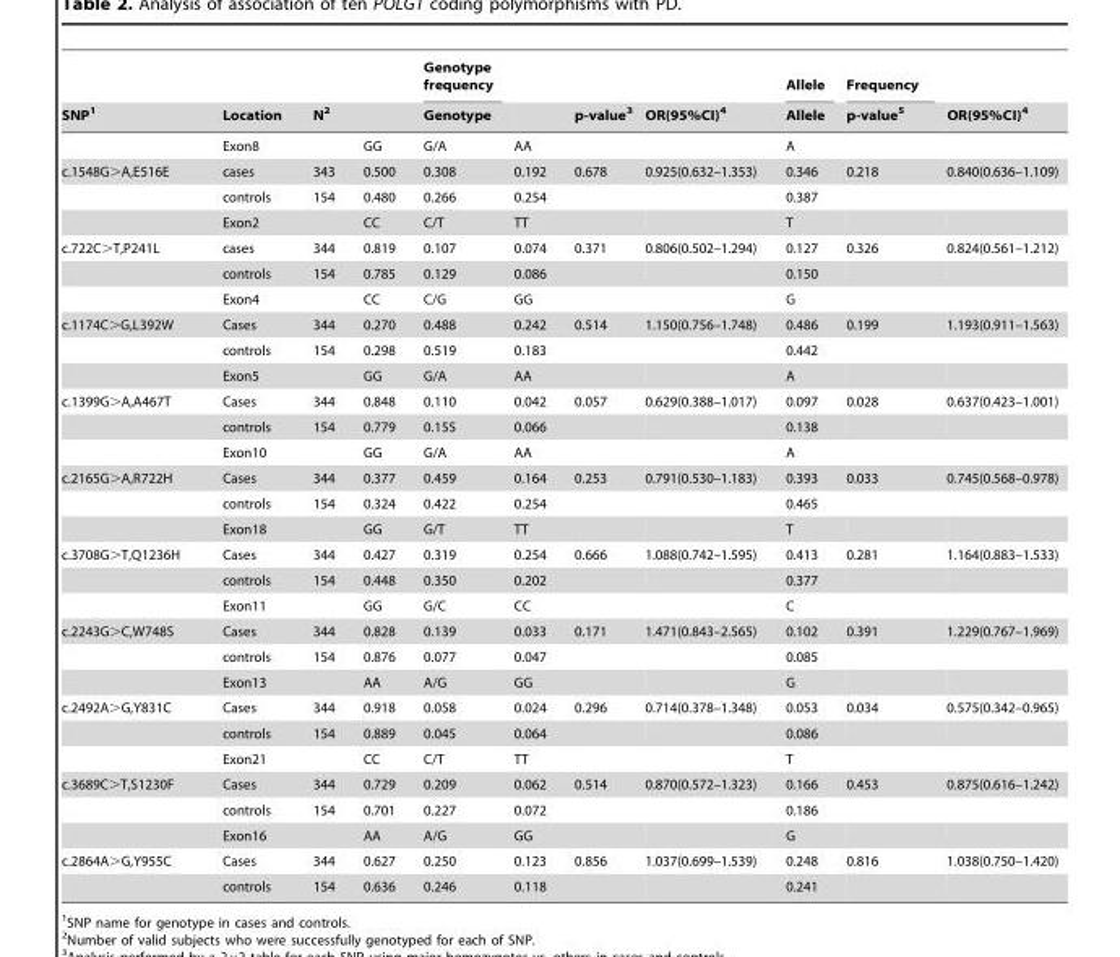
<table><thead><tr><td rowspan="2">SNP<sup>1</sup></td><td rowspan="2">Location</td><td rowspan="2">N<sup>2</sup></td><td rowspan="2"></td><td rowspan="2">Genotype frequency Genotype</td><td rowspan="2"></td><td rowspan="2">p-value<sup>3</sup></td><td rowspan="2">OR(95%CI)<sup>4</sup></td><td rowspan="2">Allele Allele</td><td rowspan="2">Frequency p-value<sup>5</sup></td><td rowspan="2">OR(95%CI)<sup>4</sup></td></tr><tr></tr></thead><tbody><tr><td></td><td>Exon8</td><td></td><td>GG</td><td>G/A</td><td>AA</td><td></td><td></td><td>A</td><td></td><td></td></tr><tr><td rowspan="3">c.1548G&gt;A,E516E</td><td>cases</td><td>343</td><td>0.500</td><td>0.308</td><td>0.192</td><td>0.678</td><td>0.925(0.632–1.353)</td><td>0.346</td><td>0.218</td><td>0.840(0.636–1.109)</td></tr><tr><td>controls</td><td>154</td><td>0.480</td><td>0.266</td><td>0.254</td><td></td><td></td><td>0.387</td><td></td><td></td></tr><tr><td>Exon2</td><td></td><td>CC</td><td>C/T</td><td>TT</td><td></td><td></td><td>T</td><td></td><td></td></tr><tr><td rowspan="3">c.722C&gt;T,P241L</td><td>cases</td><td>344</td><td>0.819</td><td>0.107</td><td>0.074</td><td>0.371</td><td>0.806(0.502–1.294)</td><td>0.127</td><td>0.326</td><td>0.824(0.561–1.212)</td></tr><tr><td>controls</td><td>154</td><td>0.785</td><td>0.129</td><td>0.086</td><td></td><td></td><td>0.150</td><td></td><td></td></tr><tr><td>Exon4</td><td></td><td>CC</td><td>C/G</td><td>GG</td><td></td><td></td><td>G</td><td></td><td></td></tr><tr><td rowspan="3">c.1174C&gt;G,L392W</td><td>Cases</td><td>344</td><td>0.270</td><td>0.488</td><td>0.242</td><td>0.514</td><td>1.150(0.756–1.748)</td><td>0.486</td><td>0.199</td><td>1.193(0.911–1.563)</td></tr><tr><td>controls</td><td>154</td><td>0.298</td><td>0.519</td><td>0.183</td><td></td><td></td><td>0.442</td><td></td><td></td></tr><tr><td>Exon5</td><td></td><td>GG</td><td>G/A</td><td>AA</td><td></td><td></td><td>A</td><td></td><td></td></tr><tr><td rowspan="3">c.1399G&gt;A,A467T</td><td>Cases</td><td>344</td><td>0.848</td><td>0.110</td><td>0.042</td><td>0.057</td><td>0.629(0.388–1.017)</td><td>0.097</td><td>0.028</td><td>0.637(0.423–1.001)</td></tr><tr><td>controls</td><td>154</td><td>0.779</td><td>0.155</td><td>0.066</td><td></td><td></td><td>0.138</td><td></td><td></td></tr><tr><td>Exon10</td><td></td><td>GG</td><td>G/A</td><td>AA</td><td></td><td></td><td>A</td><td></td><td></td></tr><tr><td rowspan="3">c.2165G&gt;A,R722H</td><td>Cases</td><td>344</td><td>0.377</td><td>0.459</td><td>0.164</td><td>0.253</td><td>0.791(0.530–1.183)</td><td>0.393</td><td>0.033</td><td>0.745(0.568–0.978)</td></tr><tr><td>controls</td><td>154</td><td>0.324</td><td>0.422</td><td>0.254</td><td></td><td></td><td>0.465</td><td></td><td></td></tr><tr><td>Exon18</td><td></td><td>GG</td><td>G/T</td><td>TT</td><td></td><td></td><td>T</td><td></td><td></td></tr><tr><td rowspan="3">c.3708G&gt;T,Q1236H</td><td>Cases</td><td>344</td><td>0.427</td><td>0.319</td><td>0.254</td><td>0.666</td><td>1.088(0.742–1.595)</td><td>0.413</td><td>0.281</td><td>1.164(0.883–1.533)</td></tr><tr><td>controls</td><td>154</td><td>0.448</td><td>0.350</td><td>0.202</td><td></td><td></td><td>0.377</td><td></td><td></td></tr><tr><td>Exon11</td><td></td><td>GG</td><td>G/C</td><td>CC</td><td></td><td></td><td>C</td><td></td><td></td></tr><tr><td rowspan="3">c.2243G&gt;C,W748S</td><td>Cases</td><td>344</td><td>0.828</td><td>0.139</td><td>0.033</td><td>0.171</td><td>1.471(0.843–2.565)</td><td>0.102</td><td>0.391</td><td>1.229(0.767–1.969)</td></tr><tr><td>controls</td><td>154</td><td>0.876</td><td>0.077</td><td>0.047</td><td></td><td></td><td>0.085</td><td></td><td></td></tr><tr><td>Exon13</td><td></td><td>AA</td><td>A/G</td><td>GG</td><td></td><td></td><td>G</td><td></td><td></td></tr><tr><td rowspan="3">c.2492A&gt;G,Y831C</td><td>Cases</td><td>344</td><td>0.918</td><td>0.058</td><td>0.024</td><td>0.296</td><td>0.714(0.378–1.348)</td><td>0.053</td><td>0.034</td><td>0.575(0.342–0.965)</td></tr><tr><td>controls</td><td>154</td><td>0.889</td><td>0.045</td><td>0.064</td><td></td><td></td><td>0.086</td><td></td><td></td></tr><tr><td>Exon21</td><td></td><td>CC</td><td>C/T</td><td>TT</td><td></td><td></td><td>T</td><td></td><td></td></tr><tr><td rowspan="3">c.3689C&gt;T,S1230F</td><td>Cases</td><td>344</td><td>0.729</td><td>0.209</td><td>0.062</td><td>0.514</td><td>0.870(0.572–1.323)</td><td>0.166</td><td>0.453</td><td>0.875(0.616–1.242)</td></tr><tr><td>controls</td><td>154</td><td>0.701</td><td>0.227</td><td>0.072</td><td></td><td></td><td>0.186</td><td></td><td></td></tr><tr><td>Exon16</td><td></td><td>AA</td><td>A/G</td><td>GG</td><td></td><td></td><td>G</td><td></td><td></td></tr><tr><td rowspan="2">c.2864A&gt;G,Y955C</td><td>Cases</td><td>344</td><td>0.627</td><td>0.250</td><td>0.123</td><td>0.856</td><td>1.037(0.699–1.539)</td><td>0.248</td><td>0.816</td><td>1.038(0.750–1.420)</td></tr><tr><td>controls</td><td>154</td><td>0.636</td><td>0.246</td><td>0.118</td><td></td><td></td><td>0.241</td><td></td><td></td></tr></tbody></table>